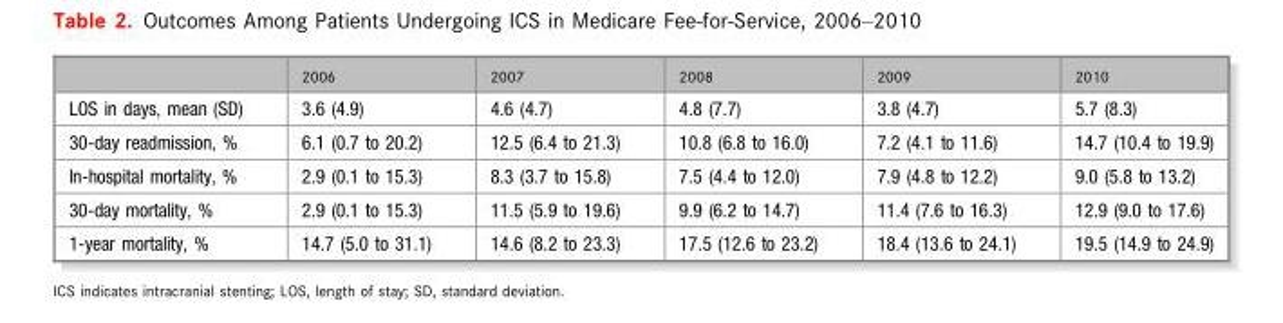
<table><thead><tr><td></td><td>2006</td><td>2007</td><td>2008</td><td>2009</td><td>2010</td></tr></thead><tbody><tr><td>LOS in days, mean (SD)</td><td>3.6 (4.9)</td><td>4.6 (4.7)</td><td>4.8 (7.7)</td><td>3.8 (4.7)</td><td>5.7 (8.3)</td></tr><tr><td>30-day readmission, %</td><td>6.1 (0.7 to 20.2)</td><td>12.5 (6.4 to 21.3)</td><td>10.8 (6.8 to 16.0)</td><td>7.2 (4.1 to 11.6)</td><td>14.7 (10.4 to 19.9)</td></tr><tr><td>In-hospital mortality, %</td><td>2.9 (0.1 to 15.3)</td><td>8.3 (3.7 to 15.8)</td><td>7.5 (4.4 to 12.0)</td><td>7.9 (4.8 to 12.2)</td><td>9.0 (5.8 to 13.2)</td></tr><tr><td>30-day mortality, %</td><td>2.9 (0.1 to 15.3)</td><td>11.5 (5.9 to 19.6)</td><td>9.9 (6.2 to 14.7)</td><td>11.4 (7.6 to 16.3)</td><td>12.9 (9.0 to 17.6)</td></tr><tr><td>1-year mortality, %</td><td>14.7 (5.0 to 31.1)</td><td>14.6 (8.2 to 23.3)</td><td>17.5 (12.6 to 23.2)</td><td>18.4 (13.6 to 24.1)</td><td>19.5 (14.9 to 24.9)</td></tr></tbody></table>